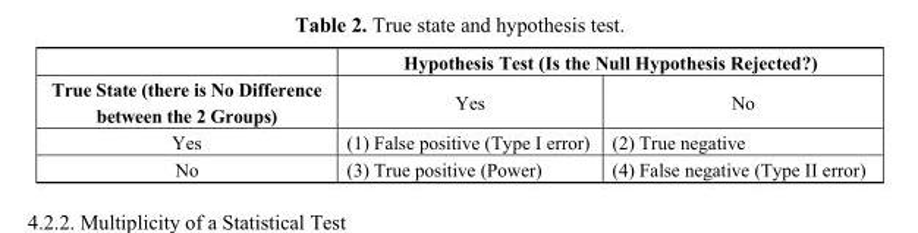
<table><thead><tr><td rowspan="2">True State (there is No Difference between the 2 Groups)</td><td colspan="2">Hypothesis Test (Is the Null Hypothesis Rejected?)</td></tr><tr><td>Yes</td><td>No</td></tr></thead><tbody><tr><td>Yes</td><td>(1) False positive (Type I error)</td><td>(2) True negative</td></tr><tr><td>No</td><td>(3) True positive (Power)</td><td>(4) False negative (Type II error)</td></tr></tbody></table>